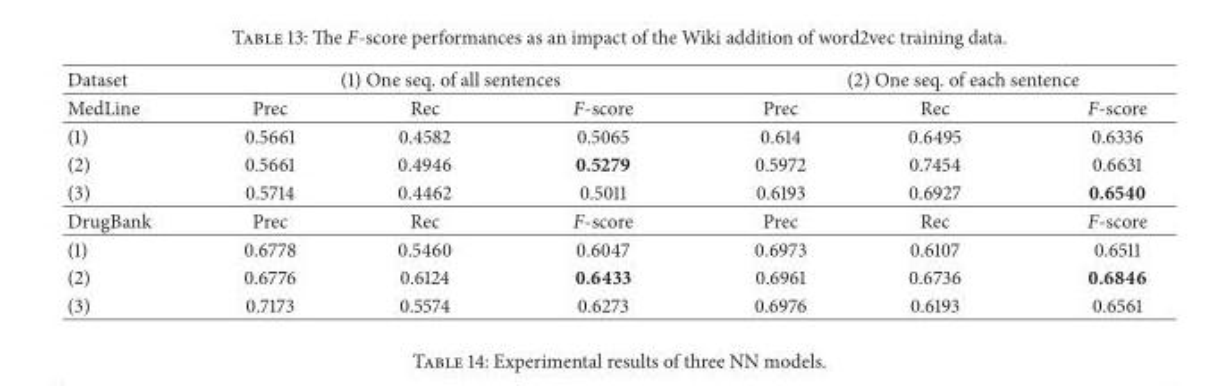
<table><thead><tr><td rowspan="2">Dataset MedLine</td><td colspan="3">(1) One seq. of all sentences</td><td colspan="3">(2) One seq. of each sentence</td></tr><tr><td>Prec</td><td>Rec</td><td>F-score</td><td>Prec</td><td>Rec</td><td>F-score</td></tr></thead><tbody><tr><td>(1)</td><td>0.5661</td><td>0.4582</td><td>0.5065</td><td>0.614</td><td>0.6495</td><td>0.6336</td></tr><tr><td>(2)</td><td>0.5661</td><td>0.4946</td><td>0.5279</td><td>0.5972</td><td>0.7454</td><td>0.6631</td></tr><tr><td>(3)</td><td>0.5714</td><td>0.4462</td><td>0.5011</td><td>0.6193</td><td>0.6927</td><td>0.6540</td></tr><tr><td>DrugBank</td><td>Prec</td><td>Rec</td><td>F-score</td><td>Prec</td><td>Rec</td><td>F-score</td></tr><tr><td>(1)</td><td>0.6778</td><td>0.5460</td><td>0.6047</td><td>0.6973</td><td>0.6107</td><td>0.6511</td></tr><tr><td>(2)</td><td>0.6776</td><td>0.6124</td><td>0.6433</td><td>0.6961</td><td>0.6736</td><td>0.6846</td></tr><tr><td>(3)</td><td>0.7173</td><td>0.5574</td><td>0.6273</td><td>0.6976</td><td>0.6193</td><td>0.6561</td></tr></tbody></table>